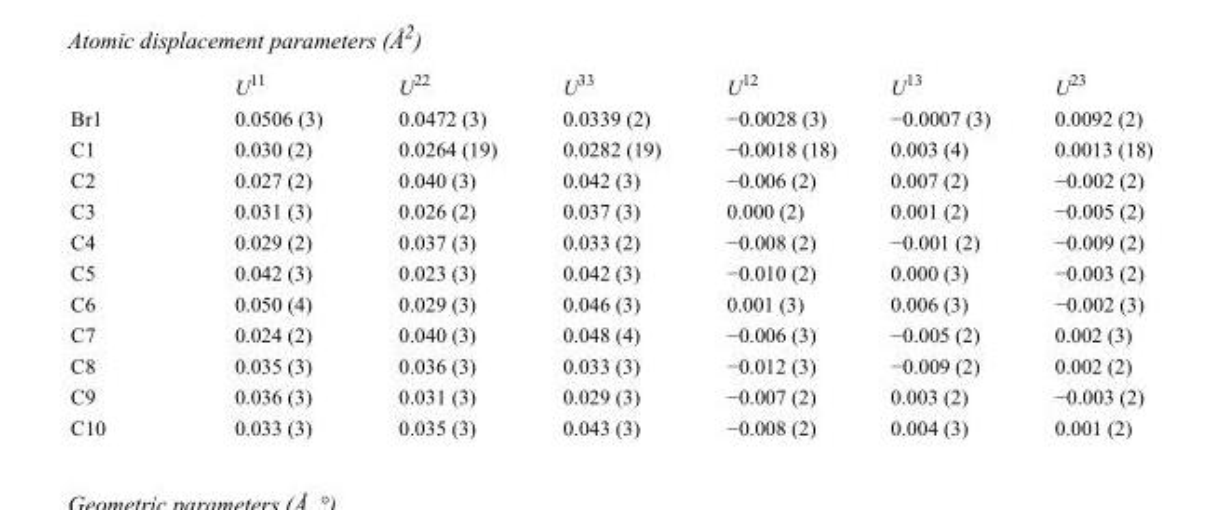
<table><thead><tr><td></td><td>U<sup>11</sup></td><td>U<sup>22</sup></td><td>U<sup>33</sup></td><td>U<sup>12</sup></td><td>U<sup>13</sup></td><td>U<sup>23</sup></td></tr></thead><tbody><tr><td>Br1</td><td>0.0506 (3)</td><td>0.0472 (3)</td><td>0.0339 (2)</td><td>−0.0028 (3)</td><td>−0.0007 (3)</td><td>0.0092 (2)</td></tr><tr><td>C1</td><td>0.030 (2)</td><td>0.0264 (19)</td><td>0.0282 (19)</td><td>−0.0018 (18)</td><td>0.003 (4)</td><td>0.0013 (18)</td></tr><tr><td>C2</td><td>0.027 (2)</td><td>0.040 (3)</td><td>0.042 (3)</td><td>−0.006 (2)</td><td>0.007 (2)</td><td>−0.002 (2)</td></tr><tr><td>C3</td><td>0.031 (3)</td><td>0.026 (2)</td><td>0.037 (3)</td><td>0.000 (2)</td><td>0.001 (2)</td><td>−0.005 (2)</td></tr><tr><td>C4</td><td>0.029 (2)</td><td>0.037 (3)</td><td>0.033 (2)</td><td>−0.008 (2)</td><td>−0.001 (2)</td><td>−0.009 (2)</td></tr><tr><td>C5</td><td>0.042 (3)</td><td>0.023 (3)</td><td>0.042 (3)</td><td>−0.010 (2)</td><td>0.000 (3)</td><td>−0.003 (2)</td></tr><tr><td>C6</td><td>0.050 (4)</td><td>0.029 (3)</td><td>0.046 (3)</td><td>0.001 (3)</td><td>0.006 (3)</td><td>−0.002 (3)</td></tr><tr><td>C7</td><td>0.024 (2)</td><td>0.040 (3)</td><td>0.048 (4)</td><td>−0.006 (3)</td><td>−0.005 (2)</td><td>0.002 (3)</td></tr><tr><td>C8</td><td>0.035 (3)</td><td>0.036 (3)</td><td>0.033 (3)</td><td>−0.012 (3)</td><td>−0.009 (2)</td><td>0.002 (2)</td></tr><tr><td>C9</td><td>0.036 (3)</td><td>0.031 (3)</td><td>0.029 (3)</td><td>−0.007 (2)</td><td>0.003 (2)</td><td>−0.003 (2)</td></tr><tr><td>C10</td><td>0.033 (3)</td><td>0.035 (3)</td><td>0.043 (3)</td><td>−0.008 (2)</td><td>0.004 (3)</td><td>0.001 (2)</td></tr></tbody></table>